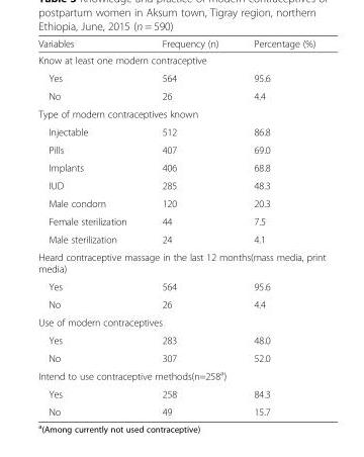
<table><thead><tr><td>Variables</td><td>Frequency (n)</td><td>Percentage (%)</td></tr></thead><tbody><tr><td colspan="3">Know at least one modern contraceptive</td></tr><tr><td>Yes</td><td>564</td><td>95.6</td></tr><tr><td>No</td><td>26</td><td>4.4</td></tr><tr><td colspan="3">Type of modern contraceptives known</td></tr><tr><td>Injectable</td><td>512</td><td>86.8</td></tr><tr><td>Pills</td><td>407</td><td>69.0</td></tr><tr><td>Implants</td><td>406</td><td>68.8</td></tr><tr><td>IUD</td><td>285</td><td>48.3</td></tr><tr><td>Male condom</td><td>120</td><td>20.3</td></tr><tr><td>Female sterilization</td><td>44</td><td>7.5</td></tr><tr><td>Male sterilization</td><td>24</td><td>4.1</td></tr><tr><td colspan="3">Heard contraceptive massage in the last 12 months(mass media, print media)</td></tr><tr><td>Yes</td><td>564</td><td>95.6</td></tr><tr><td>No</td><td>26</td><td>4.4</td></tr><tr><td colspan="3">Use of modern contraceptives</td></tr><tr><td>Yes</td><td>283</td><td>48.0</td></tr><tr><td>No</td><td>307</td><td>52.0</td></tr><tr><td colspan="3">Intend to use contraceptive methods(n=258<sup>a</sup>)</td></tr><tr><td>Yes</td><td>258</td><td>84.3</td></tr><tr><td>No</td><td>49</td><td>15.7</td></tr></tbody></table>